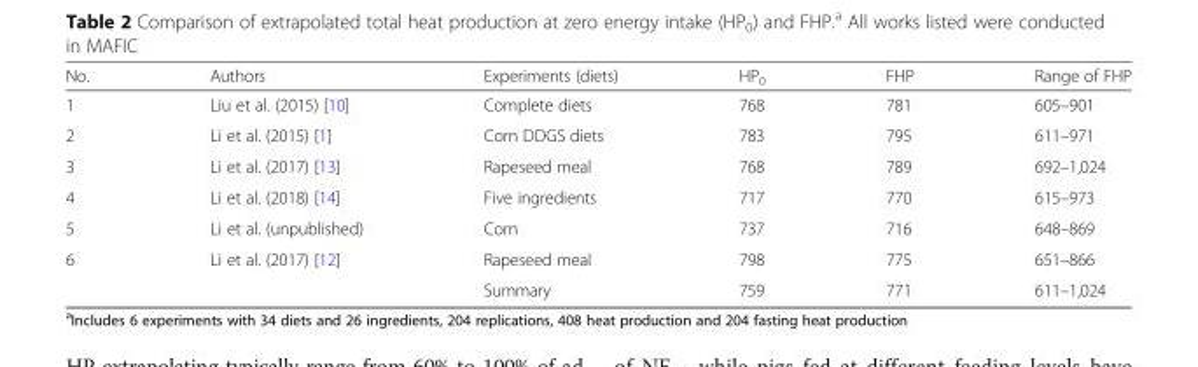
<table><thead><tr><td>No.</td><td>Authors</td><td>Experiments (diets)</td><td>HP<sub>0</sub></td><td>FHP</td><td>Range of FHP</td></tr></thead><tbody><tr><td>1</td><td>Liu et al. (2015) [10]</td><td>Complete diets</td><td>768</td><td>781</td><td>605–901</td></tr><tr><td>2</td><td>Li et al. (2015) [1]</td><td>Corn DDGS diets</td><td>783</td><td>795</td><td>611–971</td></tr><tr><td>3</td><td>Li et al. (2017) [13]</td><td>Rapeseed meal</td><td>768</td><td>789</td><td>692–1,024</td></tr><tr><td>4</td><td>Li et al. (2018) [14]</td><td>Five ingredients</td><td>717</td><td>770</td><td>615–973</td></tr><tr><td>5</td><td>Li et al. (unpublished)</td><td>Corn</td><td>737</td><td>716</td><td>648–869</td></tr><tr><td rowspan="2">6</td><td>Li et al. (2017) [12]</td><td>Rapeseed meal</td><td>798</td><td>775</td><td>651–866</td></tr><tr><td></td><td>Summary</td><td>759</td><td>771</td><td>611–1,024</td></tr></tbody></table>